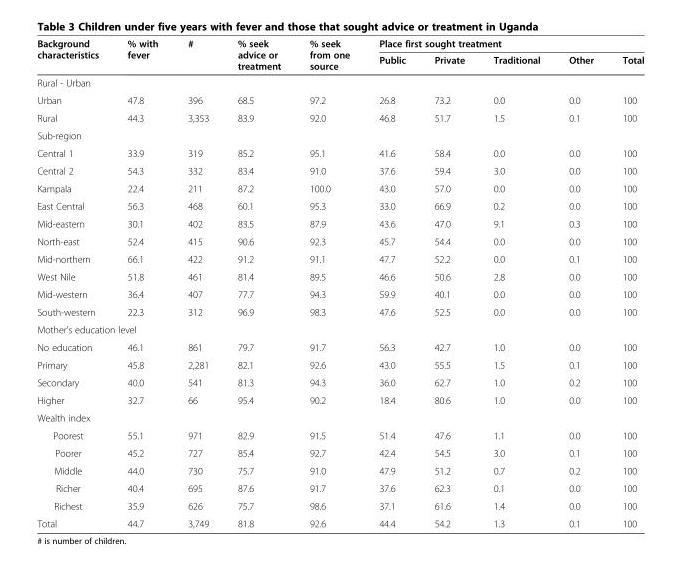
<table><thead><tr><td rowspan="2">Background characteristics</td><td rowspan="2">% with fever</td><td rowspan="2">#</td><td rowspan="2">% seek advice or treatment</td><td rowspan="2">% seek from one source</td><td colspan="5">Place first sought treatment</td></tr><tr><td>Public</td><td>Private</td><td>Traditional</td><td>Other</td><td>Total</td></tr></thead><tbody><tr><td colspan="10">Rural - Urban</td></tr><tr><td>Urban</td><td>47.8</td><td>396</td><td>68.5</td><td>97.2</td><td>26.8</td><td>73.2</td><td>0.0</td><td>0.0</td><td>100</td></tr><tr><td>Rural</td><td>44.3</td><td>3,353</td><td>83.9</td><td>92.0</td><td>46.8</td><td>51.7</td><td>1.5</td><td>0.1</td><td>100</td></tr><tr><td colspan="10">Sub-region</td></tr><tr><td>Central 1</td><td>33.9</td><td>319</td><td>85.2</td><td>95.1</td><td>41.6</td><td>58.4</td><td>0.0</td><td>0.0</td><td>100</td></tr><tr><td>Central 2</td><td>54.3</td><td>332</td><td>83.4</td><td>91.0</td><td>37.6</td><td>59.4</td><td>3.0</td><td>0.0</td><td>100</td></tr><tr><td>Kampala</td><td>22.4</td><td>211</td><td>87.2</td><td>100.0</td><td>43.0</td><td>57.0</td><td>0.0</td><td>0.0</td><td>100</td></tr><tr><td>East Central</td><td>56.3</td><td>468</td><td>60.1</td><td>95.3</td><td>33.0</td><td>66.9</td><td>0.2</td><td>0.0</td><td>100</td></tr><tr><td>Mid-eastern</td><td>30.1</td><td>402</td><td>83.5</td><td>87.9</td><td>43.6</td><td>47.0</td><td>9.1</td><td>0.3</td><td>100</td></tr><tr><td>North-east</td><td>52.4</td><td>415</td><td>90.6</td><td>92.3</td><td>45.7</td><td>54.4</td><td>0.0</td><td>0.0</td><td>100</td></tr><tr><td>Mid-northern</td><td>66.1</td><td>422</td><td>91.2</td><td>91.1</td><td>47.7</td><td>52.2</td><td>0.0</td><td>0.1</td><td>100</td></tr><tr><td>West Nile</td><td>51.8</td><td>461</td><td>81.4</td><td>89.5</td><td>46.6</td><td>50.6</td><td>2.8</td><td>0.0</td><td>100</td></tr><tr><td>Mid-western</td><td>36.4</td><td>407</td><td>77.7</td><td>94.3</td><td>59.9</td><td>40.1</td><td>0.0</td><td>0.0</td><td>100</td></tr><tr><td>South-western</td><td>22.3</td><td>312</td><td>96.9</td><td>98.3</td><td>47.6</td><td>52.5</td><td>0.0</td><td>0.0</td><td>100</td></tr><tr><td colspan="10">Mother&#x27;s education level</td></tr><tr><td>No education</td><td>46.1</td><td>861</td><td>79.7</td><td>91.7</td><td>56.3</td><td>42.7</td><td>1.0</td><td>0.0</td><td>100</td></tr><tr><td>Primary</td><td>45.8</td><td>2,281</td><td>82.1</td><td>92.6</td><td>43.0</td><td>55.5</td><td>1.5</td><td>0.1</td><td>100</td></tr><tr><td>Secondary</td><td>40.0</td><td>541</td><td>81.3</td><td>94.3</td><td>36.0</td><td>62.7</td><td>1.0</td><td>0.2</td><td>100</td></tr><tr><td>Higher</td><td>32.7</td><td>66</td><td>95.4</td><td>90.2</td><td>18.4</td><td>80.6</td><td>1.0</td><td>0.0</td><td>100</td></tr><tr><td colspan="10">Wealth index</td></tr><tr><td>Poorest</td><td>55.1</td><td>971</td><td>82.9</td><td>91.5</td><td>51.4</td><td>47.6</td><td>1.1</td><td>0.0</td><td>100</td></tr><tr><td>Poorer</td><td>45.2</td><td>727</td><td>85.4</td><td>92.7</td><td>42.4</td><td>54.5</td><td>3.0</td><td>0.1</td><td>100</td></tr><tr><td>Middle</td><td>44.0</td><td>730</td><td>75.7</td><td>91.0</td><td>47.9</td><td>51.2</td><td>0.7</td><td>0.2</td><td>100</td></tr><tr><td>Richer</td><td>40.4</td><td>695</td><td>87.6</td><td>91.7</td><td>37.6</td><td>62.3</td><td>0.1</td><td>0.0</td><td>100</td></tr><tr><td>Richest</td><td>35.9</td><td>626</td><td>75.7</td><td>98.6</td><td>37.1</td><td>61.6</td><td>1.4</td><td>0.0</td><td>100</td></tr><tr><td>Total</td><td>44.7</td><td>3,749</td><td>81.8</td><td>92.6</td><td>44.4</td><td>54.2</td><td>1.3</td><td>0.1</td><td>100</td></tr></tbody></table>